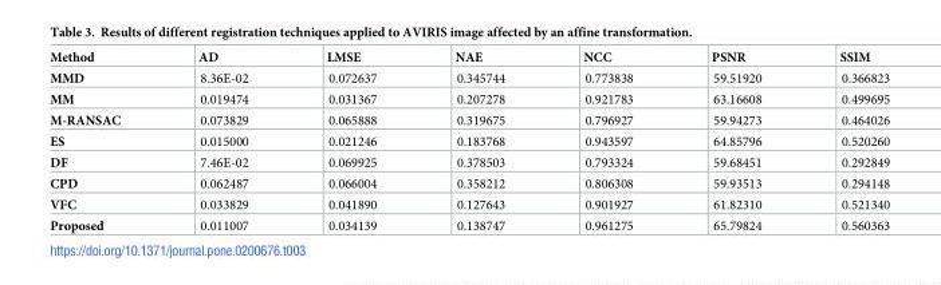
<table><thead><tr><td>Method</td><td>AD</td><td>LMSE</td><td>NAE</td><td>NCC</td><td>PSNR</td><td>SSIM</td></tr></thead><tbody><tr><td>MMD</td><td>8.36E-02</td><td>0.072637</td><td>0.345744</td><td>0.773838</td><td>59.51920</td><td>0.366823</td></tr><tr><td>MM</td><td>0.019474</td><td>0.031367</td><td>0.207278</td><td>0.921783</td><td>63.16608</td><td>0.499695</td></tr><tr><td>M-RANSAC</td><td>0.073829</td><td>0.065888</td><td>0.319675</td><td>0.796927</td><td>59.94273</td><td>0.464026</td></tr><tr><td>ES</td><td>0.015000</td><td>0.021246</td><td>0.183768</td><td>0.943597</td><td>64.85796</td><td>0.520260</td></tr><tr><td>DF</td><td>7.46E-02</td><td>0.069925</td><td>0.378503</td><td>0.793324</td><td>59.68451</td><td>0.292849</td></tr><tr><td>CPD</td><td>0.062487</td><td>0.066004</td><td>0.358212</td><td>0.806308</td><td>59.93513</td><td>0.294148</td></tr><tr><td>VFC</td><td>0.033829</td><td>0.041890</td><td>0.127643</td><td>0.901927</td><td>61.82310</td><td>0.521340</td></tr><tr><td>Proposed</td><td>0.011007</td><td>0.034139</td><td>0.138747</td><td>0.961275</td><td>65.79824</td><td>0.560363</td></tr></tbody></table>